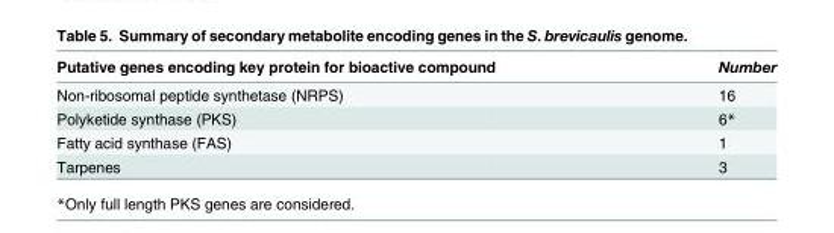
<table><thead><tr><td>Putative genes encoding key protein for bioactive compound</td><td>Number</td></tr></thead><tbody><tr><td>Non-ribosomal peptide synthetase (NRPS)</td><td>16</td></tr><tr><td>Polyketide synthase (PKS)</td><td>6*</td></tr><tr><td>Fatty acid synthase (FAS)</td><td>1</td></tr><tr><td>Tarpenes</td><td>3</td></tr></tbody></table>